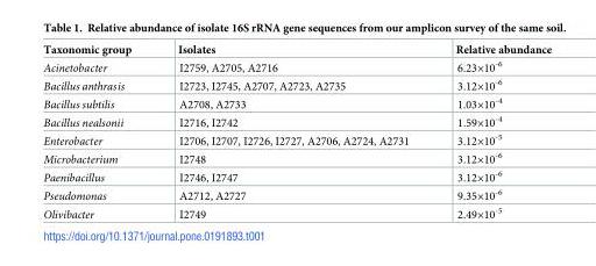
<table><thead><tr><td>Taxonomic group</td><td>Isolates</td><td>Relative abundance</td></tr></thead><tbody><tr><td>Acinetobacter</td><td>I2759, A2705, A2716</td><td>6.23×10<sup>-6</sup></td></tr><tr><td>Bacillus anthrasis</td><td>I2723, I2745, A2707, A2723, A2735</td><td>3.12×10<sup>-6</sup></td></tr><tr><td>Bacillus subtilis</td><td>A2708, A2733</td><td>1.03×10<sup>-4</sup></td></tr><tr><td>Bacillus nealsonii</td><td>I2716, I2742</td><td>1.59×10<sup>-4</sup></td></tr><tr><td>Enterobacter</td><td>I2706, I2707, I2726, I2727, A2706, A2724, A2731</td><td>3.12×10<sup>-5</sup></td></tr><tr><td>Microbacterium</td><td>I2748</td><td>3.12×10<sup>-6</sup></td></tr><tr><td>Paenibacillus</td><td>I2746, I2747</td><td>3.12×10<sup>-6</sup></td></tr><tr><td>Pseudomonas</td><td>A2712, A2727</td><td>9.35×10<sup>-6</sup></td></tr><tr><td>Olivibacter</td><td>I2749</td><td>2.49×10<sup>-5</sup></td></tr></tbody></table>